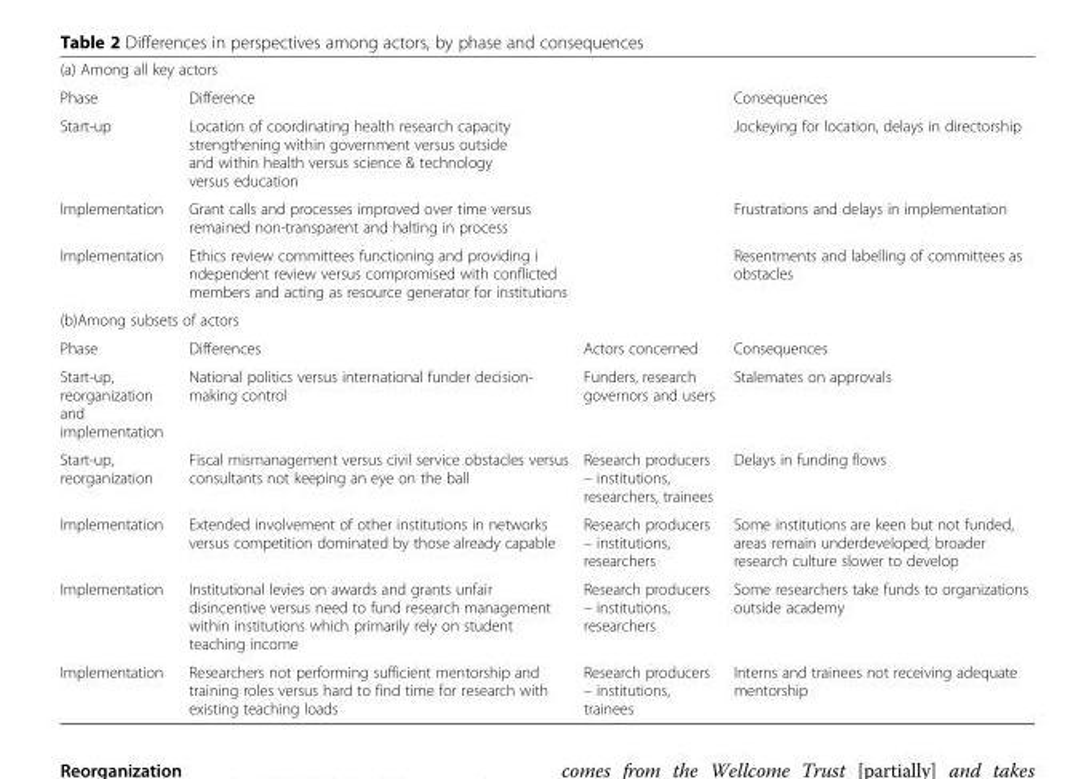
<table><tbody><tr><td colspan="4">(a) Among all key actors</td></tr><tr><td>Phase</td><td colspan="2">Difference</td><td>Consequences</td></tr><tr><td>Start-up</td><td colspan="2">Location of coordinating health research capacity strengthening within government versus outside and within health versus science &amp; technology versus education</td><td>Jockeying for location, delays in directorship</td></tr><tr><td>Implementation</td><td colspan="2">Grant calls and processes improved over time versus remained non-transparent and halting in process</td><td>Frustrations and delays in implementation</td></tr><tr><td>Implementation</td><td colspan="2">Ethics review committees functioning and providing i ndependent review versus compromised with conflicted members and acting as resource generator for institutions</td><td>Resentments and labelling of committees as obstacles</td></tr><tr><td colspan="4">(b)Among subsets of actors</td></tr><tr><td>Phase</td><td>Differences</td><td>Actors concerned</td><td>Consequences</td></tr><tr><td>Start-up, reorganization and implementation</td><td>National politics versus international funder decision- making control</td><td>Funders, research governors and users</td><td>Stalemates on approvals</td></tr><tr><td>Start-up, reorganization</td><td>Fiscal mismanagement versus civil service obstacles versus consultants not keeping an eye on the ball</td><td>Research producers – institutions, researchers, trainees</td><td>Delays in funding flows</td></tr><tr><td>Implementation</td><td>Extended involvement of other institutions in networks versus competition dominated by those already capable</td><td>Research producers – institutions, researchers</td><td>Some institutions are keen but not funded, areas remain underdeveloped, broader research culture slower to develop</td></tr><tr><td>Implementation</td><td>Institutional levies on awards and grants unfair disincentive versus need to fund research management within institutions which primarily rely on student teaching income</td><td>Research producers – institutions, researchers</td><td>Some researchers take funds to organizations outside academy</td></tr><tr><td>Implementation</td><td>Researchers not performing sufficient mentorship and training roles versus hard to find time for research with existing teaching loads</td><td>Research producers – institutions, trainees</td><td>Interns and trainees not receiving adequate mentorship</td></tr></tbody></table>